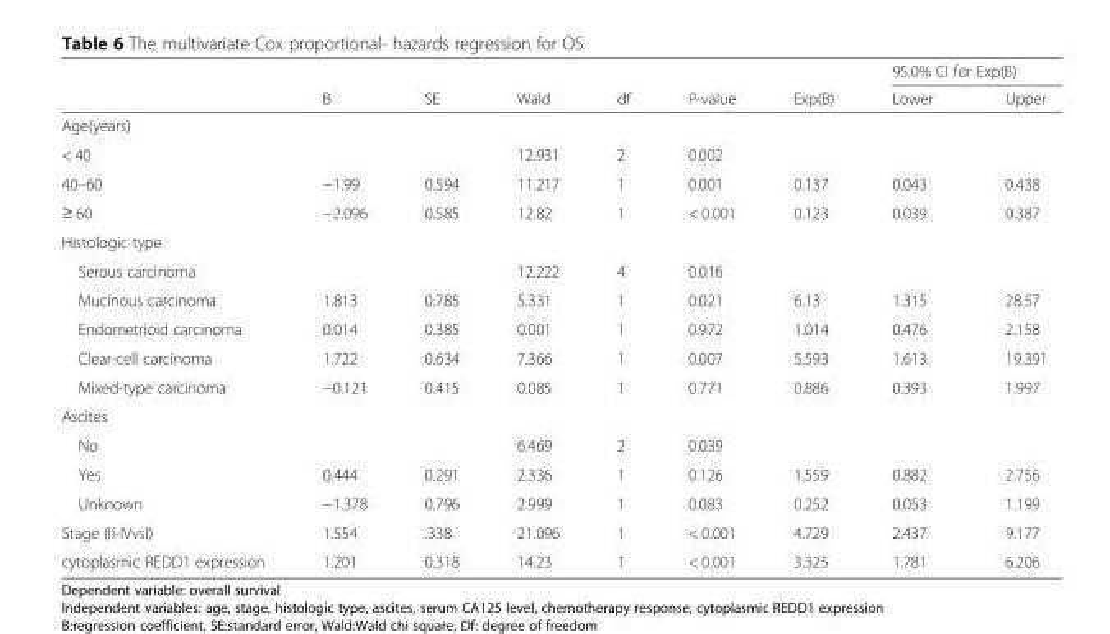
<table><thead><tr><td rowspan="2"></td><td rowspan="2">B</td><td rowspan="2">SE</td><td rowspan="2">Wald</td><td rowspan="2">df</td><td rowspan="2">P-value</td><td rowspan="2">Exp(B)</td><td colspan="2">95.0% CI for Exp(B)</td></tr><tr><td>Lower</td><td>Upper</td></tr></thead><tbody><tr><td colspan="9">Age(years)</td></tr><tr><td>&lt; 40</td><td></td><td></td><td>12.931</td><td>2</td><td>0.002</td><td></td><td></td><td></td></tr><tr><td>40–60</td><td>−1.99</td><td>0.594</td><td>11.217</td><td>1</td><td>0.001</td><td>0.137</td><td>0.043</td><td>0.438</td></tr><tr><td>≥ 60</td><td>−2.096</td><td>0.585</td><td>12.82</td><td>1</td><td>&lt; 0.001</td><td>0.123</td><td>0.039</td><td>0.387</td></tr><tr><td colspan="9">Histologic type</td></tr><tr><td>Serous carcinoma</td><td></td><td></td><td>12.222</td><td>4</td><td>0.016</td><td></td><td></td><td></td></tr><tr><td>Mucinous carcinoma</td><td>1.813</td><td>0.785</td><td>5.331</td><td>1</td><td>0.021</td><td>6.13</td><td>1.315</td><td>28.57</td></tr><tr><td>Endometrioid carcinoma</td><td>0.014</td><td>0.385</td><td>0.001</td><td>1</td><td>0.972</td><td>1.014</td><td>0.476</td><td>2.158</td></tr><tr><td>Clear-cell carcinoma</td><td>1.722</td><td>0.634</td><td>7.366</td><td>1</td><td>0.007</td><td>5.593</td><td>1.613</td><td>19.391</td></tr><tr><td>Mixed-type carcinoma</td><td>−0.121</td><td>0.415</td><td>0.085</td><td>1</td><td>0.771</td><td>0.886</td><td>0.393</td><td>1.997</td></tr><tr><td colspan="9">Ascites</td></tr><tr><td>No</td><td></td><td></td><td>6.469</td><td>2</td><td>0.039</td><td></td><td></td><td></td></tr><tr><td>Yes</td><td>0.444</td><td>0.291</td><td>2.336</td><td>1</td><td>0.126</td><td>1.559</td><td>0.882</td><td>2.756</td></tr><tr><td>Unknown</td><td>−1.378</td><td>0.796</td><td>2.999</td><td>1</td><td>0.083</td><td>0.252</td><td>0.053</td><td>1.199</td></tr><tr><td>Stage (II-IVvsI)</td><td>1.554</td><td>.338</td><td>21.096</td><td>1</td><td>&lt; 0.001</td><td>4.729</td><td>2.437</td><td>9.177</td></tr><tr><td>cytoplasmic REDD1 expression</td><td>1.201</td><td>0.318</td><td>14.23</td><td>1</td><td>&lt; 0.001</td><td>3.325</td><td>1.781</td><td>6.206</td></tr></tbody></table>